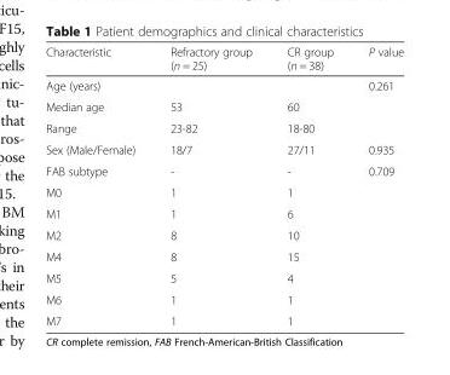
<table><thead><tr><td>Characteristic</td><td>Refractory group (n = 25)</td><td>CR group (n = 38)</td><td>P value</td></tr></thead><tbody><tr><td>Age (years)</td><td></td><td></td><td>0.261</td></tr><tr><td>Median age</td><td>53</td><td>60</td><td></td></tr><tr><td>Range</td><td>23-82</td><td>18-80</td><td></td></tr><tr><td>Sex (Male/Female)</td><td>18/7</td><td>27/11</td><td>0.935</td></tr><tr><td>FAB subtype</td><td>-</td><td>-</td><td>0.709</td></tr><tr><td>M0</td><td>1</td><td>1</td><td></td></tr><tr><td>M1</td><td>1</td><td>6</td><td></td></tr><tr><td>M2</td><td>8</td><td>10</td><td></td></tr><tr><td>M4</td><td>8</td><td>15</td><td></td></tr><tr><td>M5</td><td>5</td><td>4</td><td></td></tr><tr><td>M6</td><td>1</td><td>1</td><td></td></tr><tr><td>M7</td><td>1</td><td>1</td><td></td></tr></tbody></table>